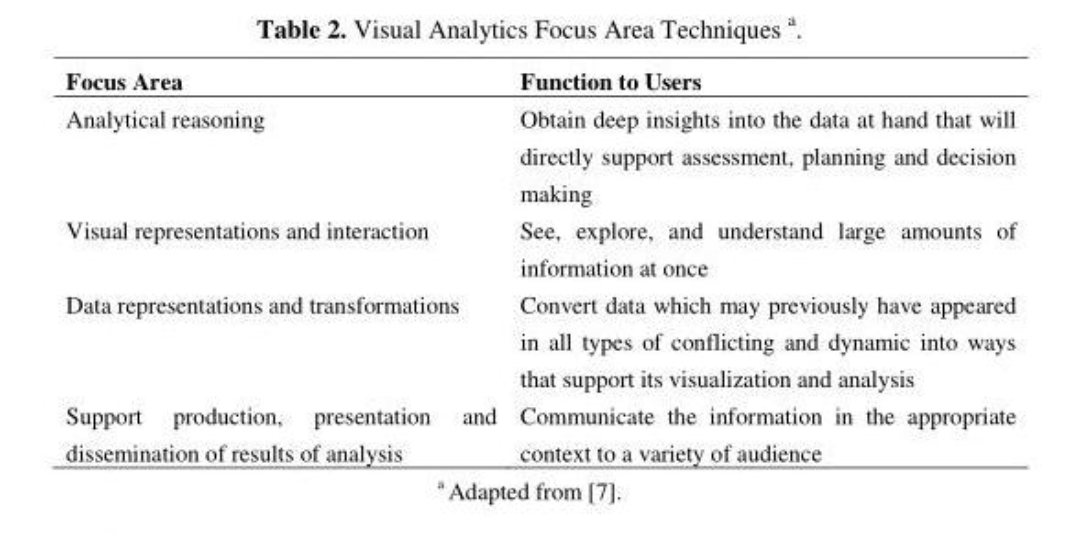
<table><thead><tr><td>Focus Area</td><td>Function to Users</td></tr></thead><tbody><tr><td>Analytical reasoning</td><td>Obtain deep insights into the data at hand that will directly support assessment, planning and decision making</td></tr><tr><td>Visual representations and interaction</td><td>See, explore, and understand large amounts of information at once</td></tr><tr><td>Data representations and transformations</td><td>Convert data which may previously have appeared in all types of conflicting and dynamic into ways that support its visualization and analysis</td></tr><tr><td>Support production, presentation and dissemination of results of analysis</td><td>Communicate the information in the appropriate context to a variety of audience</td></tr></tbody></table>